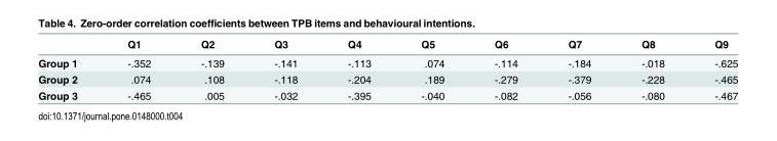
<table><thead><tr><td></td><td>Q1</td><td>Q2</td><td>Q3</td><td>Q4</td><td>Q5</td><td>Q6</td><td>Q7</td><td>Q8</td><td>Q9</td></tr></thead><tbody><tr><td>Group 1</td><td>-.352</td><td>-.139</td><td>-.141</td><td>-.113</td><td>.074</td><td>-.114</td><td>-.184</td><td>-.018</td><td>-.625</td></tr><tr><td>Group 2</td><td>.074</td><td>.108</td><td>-.118</td><td>-.204</td><td>.189</td><td>-.279</td><td>-.379</td><td>-.228</td><td>-.465</td></tr><tr><td>Group 3</td><td>-.465</td><td>.005</td><td>-.032</td><td>-.395</td><td>-.040</td><td>-.082</td><td>-.056</td><td>-.080</td><td>-.467</td></tr></tbody></table>